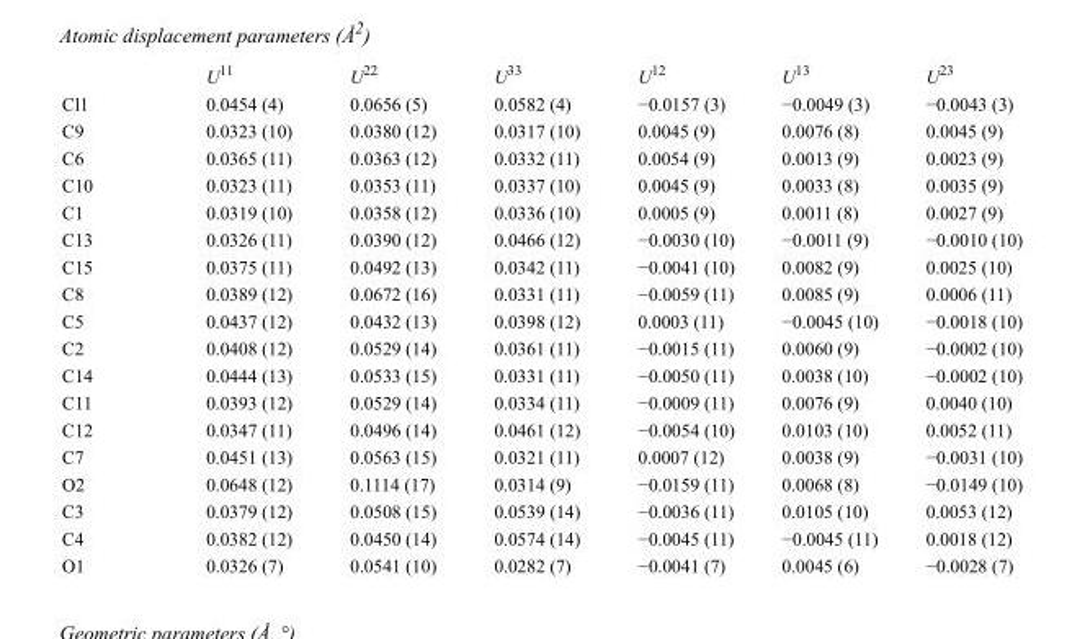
<table><thead><tr><td></td><td>U<sup>11</sup></td><td>U<sup>22</sup></td><td>U<sup>33</sup></td><td>U<sup>12</sup></td><td>U<sup>13</sup></td><td>U<sup>23</sup></td></tr></thead><tbody><tr><td>Cl1</td><td>0.0454 (4)</td><td>0.0656 (5)</td><td>0.0582 (4)</td><td>−0.0157 (3)</td><td>−0.0049 (3)</td><td>−0.0043 (3)</td></tr><tr><td>C9</td><td>0.0323 (10)</td><td>0.0380 (12)</td><td>0.0317 (10)</td><td>0.0045 (9)</td><td>0.0076 (8)</td><td>0.0045 (9)</td></tr><tr><td>C6</td><td>0.0365 (11)</td><td>0.0363 (12)</td><td>0.0332 (11)</td><td>0.0054 (9)</td><td>0.0013 (9)</td><td>0.0023 (9)</td></tr><tr><td>C10</td><td>0.0323 (11)</td><td>0.0353 (11)</td><td>0.0337 (10)</td><td>0.0045 (9)</td><td>0.0033 (8)</td><td>0.0035 (9)</td></tr><tr><td>C1</td><td>0.0319 (10)</td><td>0.0358 (12)</td><td>0.0336 (10)</td><td>0.0005 (9)</td><td>0.0011 (8)</td><td>0.0027 (9)</td></tr><tr><td>C13</td><td>0.0326 (11)</td><td>0.0390 (12)</td><td>0.0466 (12)</td><td>−0.0030 (10)</td><td>−0.0011 (9)</td><td>−0.0010 (10)</td></tr><tr><td>C15</td><td>0.0375 (11)</td><td>0.0492 (13)</td><td>0.0342 (11)</td><td>−0.0041 (10)</td><td>0.0082 (9)</td><td>0.0025 (10)</td></tr><tr><td>C8</td><td>0.0389 (12)</td><td>0.0672 (16)</td><td>0.0331 (11)</td><td>−0.0059 (11)</td><td>0.0085 (9)</td><td>0.0006 (11)</td></tr><tr><td>C5</td><td>0.0437 (12)</td><td>0.0432 (13)</td><td>0.0398 (12)</td><td>0.0003 (11)</td><td>−0.0045 (10)</td><td>−0.0018 (10)</td></tr><tr><td>C2</td><td>0.0408 (12)</td><td>0.0529 (14)</td><td>0.0361 (11)</td><td>−0.0015 (11)</td><td>0.0060 (9)</td><td>−0.0002 (10)</td></tr><tr><td>C14</td><td>0.0444 (13)</td><td>0.0533 (15)</td><td>0.0331 (11)</td><td>−0.0050 (11)</td><td>0.0038 (10)</td><td>−0.0002 (10)</td></tr><tr><td>C11</td><td>0.0393 (12)</td><td>0.0529 (14)</td><td>0.0334 (11)</td><td>−0.0009 (11)</td><td>0.0076 (9)</td><td>0.0040 (10)</td></tr><tr><td>C12</td><td>0.0347 (11)</td><td>0.0496 (14)</td><td>0.0461 (12)</td><td>−0.0054 (10)</td><td>0.0103 (10)</td><td>0.0052 (11)</td></tr><tr><td>C7</td><td>0.0451 (13)</td><td>0.0563 (15)</td><td>0.0321 (11)</td><td>0.0007 (12)</td><td>0.0038 (9)</td><td>−0.0031 (10)</td></tr><tr><td>O2</td><td>0.0648 (12)</td><td>0.1114 (17)</td><td>0.0314 (9)</td><td>−0.0159 (11)</td><td>0.0068 (8)</td><td>−0.0149 (10)</td></tr><tr><td>C3</td><td>0.0379 (12)</td><td>0.0508 (15)</td><td>0.0539 (14)</td><td>−0.0036 (11)</td><td>0.0105 (10)</td><td>0.0053 (12)</td></tr><tr><td>C4</td><td>0.0382 (12)</td><td>0.0450 (14)</td><td>0.0574 (14)</td><td>−0.0045 (11)</td><td>−0.0045 (11)</td><td>0.0018 (12)</td></tr><tr><td>O1</td><td>0.0326 (7)</td><td>0.0541 (10)</td><td>0.0282 (7)</td><td>−0.0041 (7)</td><td>0.0045 (6)</td><td>−0.0028 (7)</td></tr></tbody></table>